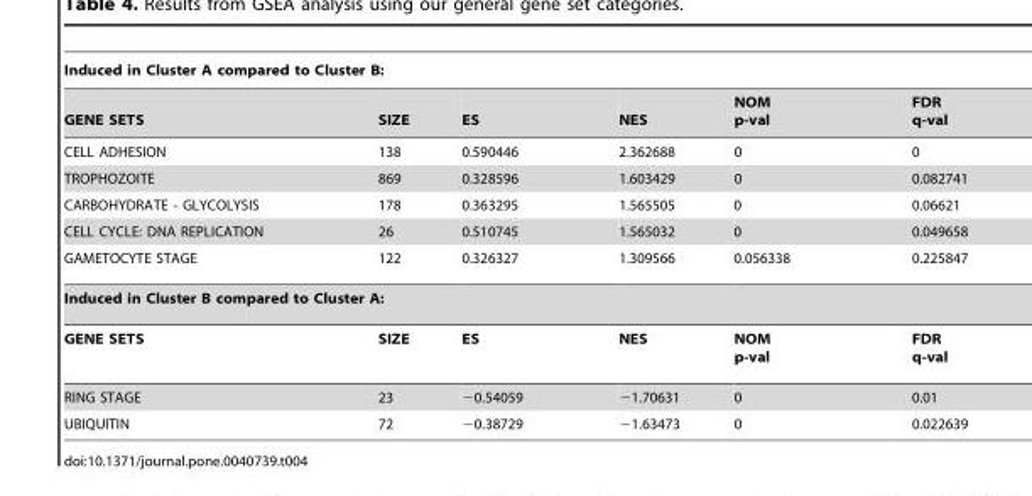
<table><thead><tr><td colspan="6">Induced in Cluster A compared to Cluster B:</td></tr><tr><td>GENE SETS</td><td>SIZE</td><td>ES</td><td>NES</td><td>NOM p-val</td><td>FDR q-val</td></tr></thead><tbody><tr><td>CELL ADHESION</td><td>138</td><td>0.590446</td><td>2.362688</td><td>0</td><td>0</td></tr><tr><td>TROPHOZOITE</td><td>869</td><td>0.328596</td><td>1.603429</td><td>0</td><td>0.082741</td></tr><tr><td>CARBOHYDRATE - GLYCOLYSIS</td><td>178</td><td>0.363295</td><td>1.565505</td><td>0</td><td>0.06621</td></tr><tr><td>CELL CYCLE: DNA REPLICATION</td><td>26</td><td>0.510745</td><td>1.565032</td><td>0</td><td>0.049658</td></tr><tr><td>GAMETOCYTE STAGE</td><td>122</td><td>0.326327</td><td>1.309566</td><td>0.056338</td><td>0.225847</td></tr><tr><td colspan="6">Induced in Cluster B compared to Cluster A:</td></tr><tr><td>GENE SETS</td><td>SIZE</td><td>ES</td><td>NES</td><td>NOM p-val</td><td>FDR q-val</td></tr><tr><td>RING STAGE</td><td>23</td><td>−0.54059</td><td>−1.70631</td><td>0</td><td>0.01</td></tr><tr><td>UBIQUITIN</td><td>72</td><td>−0.38729</td><td>−1.63473</td><td>0</td><td>0.022639</td></tr></tbody></table>